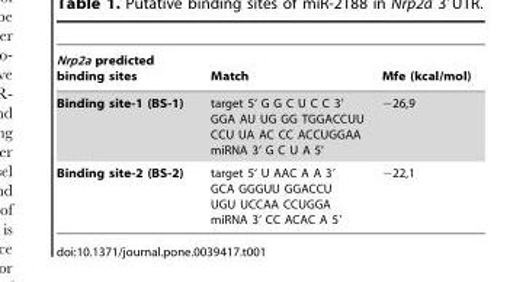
<table><thead><tr><td>Nrp2a predicted binding sites</td><td>Match</td><td>Mfe (kcal/mol)</td></tr></thead><tbody><tr><td>Binding site-1 (BS-1)</td><td>target 5‘ G G C U C C 3′ GGA AU UG GG TGGACCUU CCU UA AC CC ACCUGGAA miRNA 3‘ G C U A 5’</td><td>−26,9</td></tr><tr><td>Binding site-2 (BS-2)</td><td>target 5‘ U AAC A A 3′ GCA GGGUU GGACCU UGU UCCAA CCUGGA miRNA 3‘ CC ACAC A 5′</td><td>−22,1</td></tr></tbody></table>